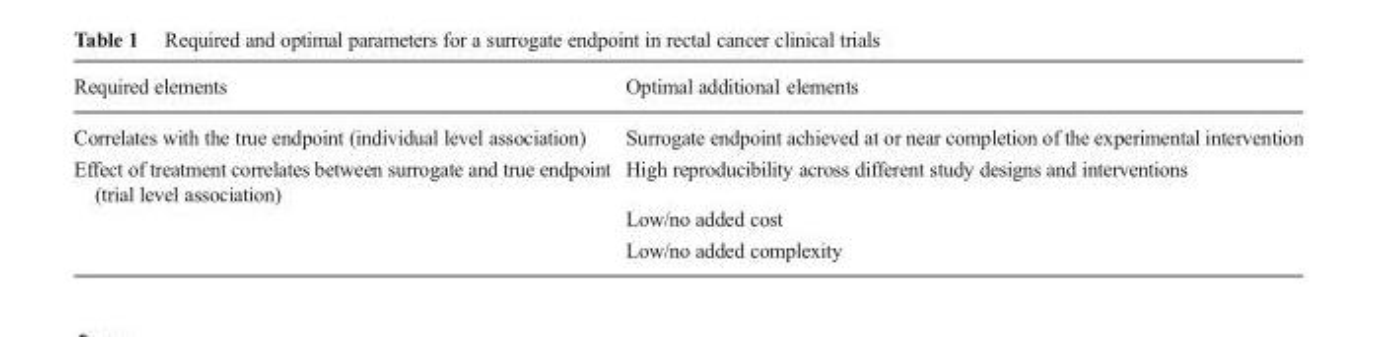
<table><thead><tr><td>Required elements</td><td>Optimal additional elements</td></tr></thead><tbody><tr><td>Correlates with the true endpoint (individual level association)</td><td>Surrogate endpoint achieved at or near completion of the experimental intervention</td></tr><tr><td rowspan="3">Effect of treatment correlates between surrogate and true endpoint (trial level association)</td><td>High reproducibility across different study designs and interventions</td></tr><tr><td>Low/no added cost</td></tr><tr><td>Low/no added complexity</td></tr></tbody></table>